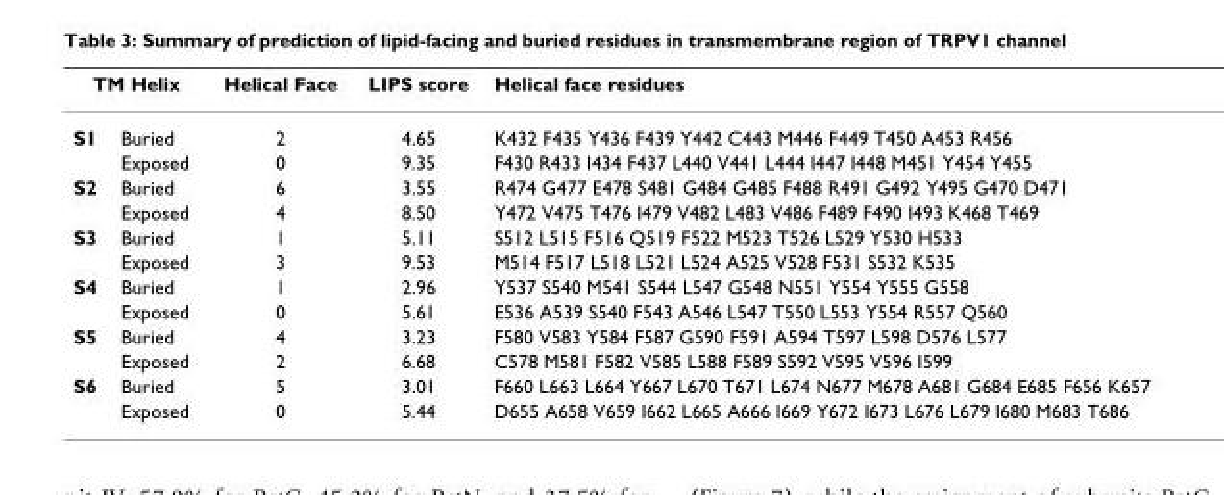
<table><thead><tr><td colspan="2">TM Helix</td><td rowspan="2">Helical Face 2</td><td rowspan="2">LIPS score 4.65</td><td rowspan="2">Helical face residues K432 F435 Y436 F439 Y442 C443 M446 F449 T450 A453 R456</td></tr><tr><td>S1</td><td>Buried</td></tr></thead><tbody><tr><td></td><td>Exposed</td><td>0</td><td>9.35</td><td>F430 R433 I434 F437 L440 V441 L444 I447 I448 M451 Y454 Y455</td></tr><tr><td rowspan="2">S2</td><td>Buried</td><td>6</td><td>3.55</td><td>R474 G477 E478 S481 G484 G485 F488 R491 G492 Y495 G470 D471</td></tr><tr><td>Exposed</td><td>4</td><td>8.50</td><td>Y472 V475 T476 I479 V482 L483 V486 F489 F490 I493 K468 T469</td></tr><tr><td rowspan="2">S3</td><td>Buried</td><td>1</td><td>5.11</td><td>S512 L515 F516 Q519 F522 M523 T526 L529 Y530 H533</td></tr><tr><td>Exposed</td><td>3</td><td>9.53</td><td>M514 F517 L518 L521 L524 A525 V528 F531 S532 K535</td></tr><tr><td rowspan="2">S4</td><td>Buried</td><td>1</td><td>2.96</td><td>Y537 S540 M541 S544 L547 G548 N551 Y554 Y555 G558</td></tr><tr><td>Exposed</td><td>0</td><td>5.61</td><td>E536 A539 S540 F543 A546 L547 T550 L553 Y554 R557 Q560</td></tr><tr><td rowspan="2">S5</td><td>Buried</td><td>4</td><td>3.23</td><td>F580 V583 Y584 F587 G590 F591 A594 T597 L598 D576 L577</td></tr><tr><td>Exposed</td><td>2</td><td>6.68</td><td>C578 M581 F582 V585 L588 F589 S592 V595 V596 I599</td></tr><tr><td rowspan="2">S6</td><td>Buried</td><td>5</td><td>3.01</td><td>F660 L663 L664 Y667 L670 T671 L674 N677 M678 A681 G684 E685 F656 K657</td></tr><tr><td>Exposed</td><td>0</td><td>5.44</td><td>D655 A658 V659 I662 L665 A666 I669 Y672 I673 L676 L679 I680 M683 T686</td></tr></tbody></table>